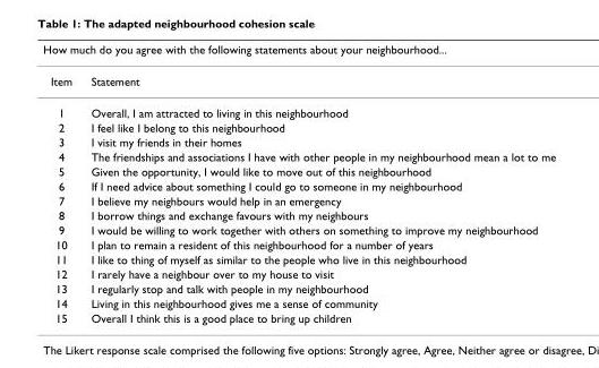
<table><thead><tr><td colspan="2">How much do you agree with the following statements about your neighbourhood...</td></tr><tr><td>Item</td><td>Statement</td></tr></thead><tbody><tr><td>1</td><td>Overall, I am attracted to living in this neighbourhood</td></tr><tr><td>2</td><td>I feel like I belong to this neighbourhood</td></tr><tr><td>3</td><td>I visit my friends in their homes</td></tr><tr><td>4</td><td>The friendships and associations I have with other people in my neighbourhood mean a lot to me</td></tr><tr><td>5</td><td>Given the opportunity, I would like to move out of this neighbourhood</td></tr><tr><td>6</td><td>If I need advice about something I could go to someone in my neighbourhood</td></tr><tr><td>7</td><td>I believe my neighbours would help in an emergency</td></tr><tr><td>8</td><td>I borrow things and exchange favours with my neighbours</td></tr><tr><td>9</td><td>I would be willing to work together with others on something to improve my neighbourhood</td></tr><tr><td>10</td><td>I plan to remain a resident of this neighbourhood for a number of years</td></tr><tr><td>11</td><td>I like to thing of myself as similar to the people who live in this neighbourhood</td></tr><tr><td>12</td><td>I rarely have a neighbour over to my house to visit</td></tr><tr><td>13</td><td>I regularly stop and talk with people in my neighbourhood</td></tr><tr><td>14</td><td>Living in this neighbourhood gives me a sense of community</td></tr><tr><td>15</td><td>Overall I think this is a good place to bring up children</td></tr></tbody></table>